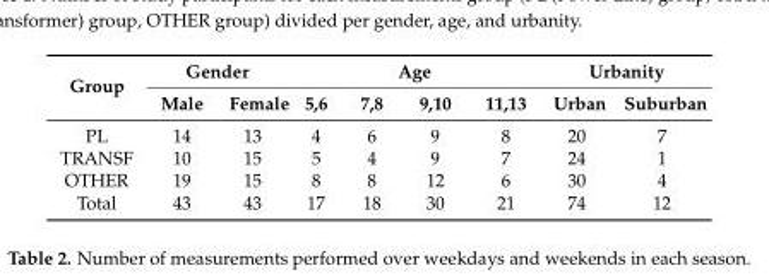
<table><thead><tr><td rowspan="2">Group</td><td colspan="2">Gender</td><td colspan="4">Age</td><td colspan="2">Urbanity</td></tr><tr><td>Male</td><td>Female</td><td>5,6</td><td>7,8</td><td>9,10</td><td>11,13</td><td>Urban</td><td>Suburban</td></tr></thead><tbody><tr><td>PL</td><td>14</td><td>13</td><td>4</td><td>6</td><td>9</td><td>8</td><td>20</td><td>7</td></tr><tr><td>TRANSF</td><td>10</td><td>15</td><td>5</td><td>4</td><td>9</td><td>7</td><td>24</td><td>1</td></tr><tr><td>OTHER</td><td>19</td><td>15</td><td>8</td><td>8</td><td>12</td><td>6</td><td>30</td><td>4</td></tr><tr><td>Total</td><td>43</td><td>43</td><td>17</td><td>18</td><td>30</td><td>21</td><td>74</td><td>12</td></tr></tbody></table>